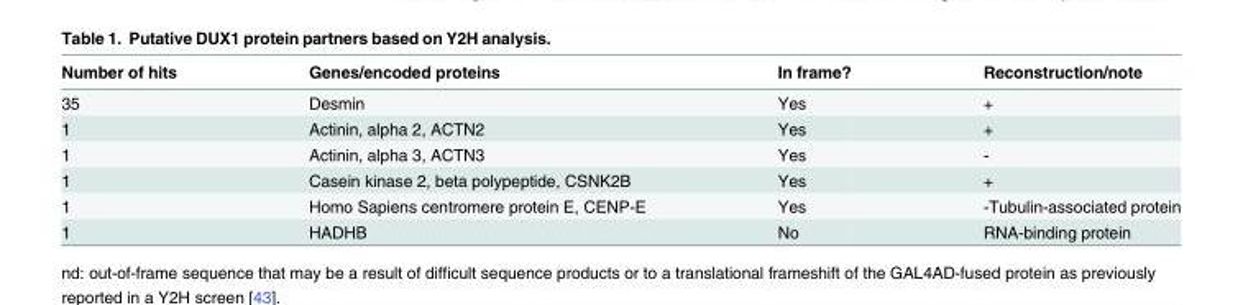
<table><thead><tr><td>Number of hits</td><td>Genes/encoded proteins</td><td>In frame?</td><td>Reconstruction/note</td></tr></thead><tbody><tr><td>35</td><td>Desmin</td><td>Yes</td><td>+</td></tr><tr><td>1</td><td>Actinin, alpha 2, ACTN2</td><td>Yes</td><td>+</td></tr><tr><td>1</td><td>Actinin, alpha 3, ACTN3</td><td>Yes</td><td>-</td></tr><tr><td>1</td><td>Casein kinase 2, beta polypeptide, CSNK2B</td><td>Yes</td><td>+</td></tr><tr><td>1</td><td>Homo Sapiens centromere protein E, CENP-E</td><td>Yes</td><td>-Tubulin-associated protein</td></tr><tr><td>1</td><td>HADHB</td><td>No</td><td>RNA-binding protein</td></tr></tbody></table>